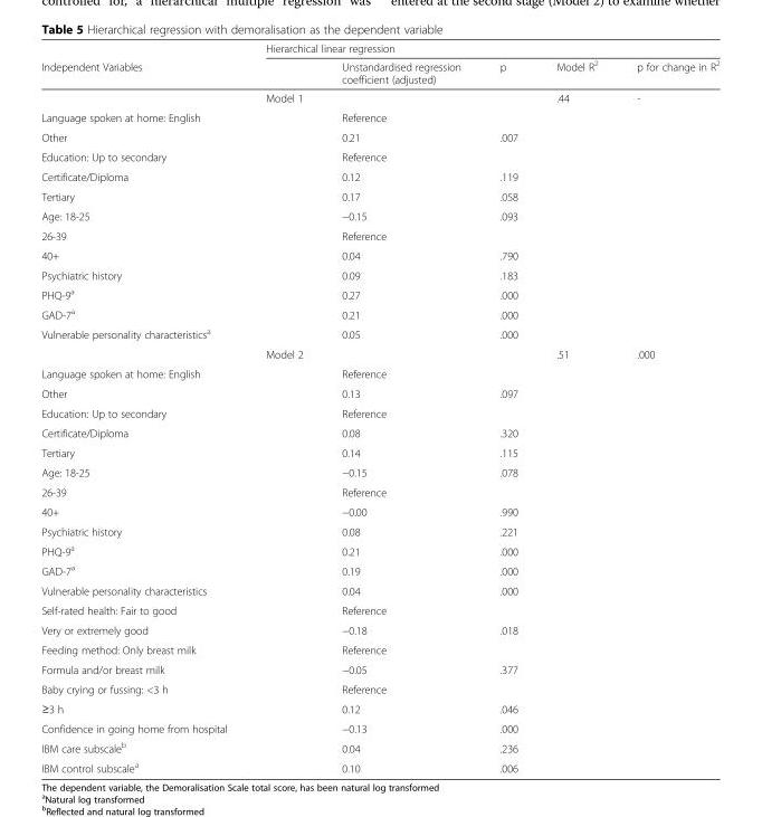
<table><thead><tr><td rowspan="2">Independent Variables</td><td colspan="5">Hierarchical linear regression</td></tr><tr><td></td><td>Unstandardised regression coefficient (adjusted)</td><td>p</td><td>Model R<sup>2</sup></td><td>p for change in R<sup>2</sup></td></tr></thead><tbody><tr><td></td><td>Model 1</td><td></td><td></td><td>.44</td><td>-</td></tr><tr><td>Language spoken at home: English</td><td></td><td>Reference</td><td></td><td></td><td></td></tr><tr><td>Other</td><td></td><td>0.21</td><td>.007</td><td></td><td></td></tr><tr><td>Education: Up to secondary</td><td></td><td>Reference</td><td></td><td></td><td></td></tr><tr><td>Certificate/Diploma</td><td></td><td>0.12</td><td>.119</td><td></td><td></td></tr><tr><td>Tertiary</td><td></td><td>0.17</td><td>.058</td><td></td><td></td></tr><tr><td>Age: 18-25</td><td></td><td>−0.15</td><td>.093</td><td></td><td></td></tr><tr><td>26-39</td><td></td><td>Reference</td><td></td><td></td><td></td></tr><tr><td>40+</td><td></td><td>0.04</td><td>.790</td><td></td><td></td></tr><tr><td>Psychiatric history</td><td></td><td>0.09</td><td>.183</td><td></td><td></td></tr><tr><td>PHQ-9<sup>a</sup></td><td></td><td>0.27</td><td>.000</td><td></td><td></td></tr><tr><td>GAD-7<sup>a</sup></td><td></td><td>0.21</td><td>.000</td><td></td><td></td></tr><tr><td rowspan="2">Vulnerable personality characteristics<sup>a</sup></td><td></td><td>0.05</td><td>.000</td><td></td><td></td></tr><tr><td>Model 2</td><td></td><td></td><td>.51</td><td>.000</td></tr><tr><td>Language spoken at home: English</td><td></td><td>Reference</td><td></td><td></td><td></td></tr><tr><td>Other</td><td></td><td>0.13</td><td>.097</td><td></td><td></td></tr><tr><td>Education: Up to secondary</td><td></td><td>Reference</td><td></td><td></td><td></td></tr><tr><td>Certificate/Diploma</td><td></td><td>0.08</td><td>.320</td><td></td><td></td></tr><tr><td>Tertiary</td><td></td><td>0.14</td><td>.115</td><td></td><td></td></tr><tr><td>Age: 18-25</td><td></td><td>−0.15</td><td>.078</td><td></td><td></td></tr><tr><td>26-39</td><td></td><td>Reference</td><td></td><td></td><td></td></tr><tr><td>40+</td><td></td><td>−0.00</td><td>.990</td><td></td><td></td></tr><tr><td>Psychiatric history</td><td></td><td>0.08</td><td>.221</td><td></td><td></td></tr><tr><td>PHQ-9<sup>a</sup></td><td></td><td>0.21</td><td>.000</td><td></td><td></td></tr><tr><td>GAD-7<sup>a</sup></td><td></td><td>0.19</td><td>.000</td><td></td><td></td></tr><tr><td>Vulnerable personality characteristics</td><td></td><td>0.04</td><td>.000</td><td></td><td></td></tr><tr><td>Self-rated health: Fair to good</td><td></td><td>Reference</td><td></td><td></td><td></td></tr><tr><td>Very or extremely good</td><td></td><td>−0.18</td><td>.018</td><td></td><td></td></tr><tr><td>Feeding method: Only breast milk</td><td></td><td>Reference</td><td></td><td></td><td></td></tr><tr><td>Formula and/or breast milk</td><td></td><td>−0.05</td><td>.377</td><td></td><td></td></tr><tr><td>Baby crying or fussing: &lt;3 h</td><td></td><td>Reference</td><td></td><td></td><td></td></tr><tr><td>≥3 h</td><td></td><td>0.12</td><td>.046</td><td></td><td></td></tr><tr><td>Confidence in going home from hospital</td><td></td><td>−0.13</td><td>.000</td><td></td><td></td></tr><tr><td>IBM care subscale<sup>b</sup></td><td></td><td>0.04</td><td>.236</td><td></td><td></td></tr><tr><td>IBM control subscale<sup>a</sup></td><td></td><td>0.10</td><td>.006</td><td></td><td></td></tr></tbody></table>